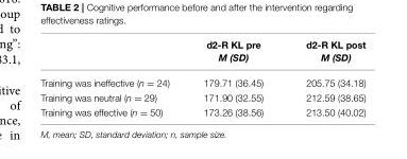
<table><thead><tr><td></td><td>d2-R KL pre M (SD)</td><td>d2-R KL post M (SD)</td></tr></thead><tbody><tr><td>Training was ineffective (n = 24)</td><td>179.71 (36.45)</td><td>205.75 (34.18)</td></tr><tr><td>Training was neutral (n = 29)</td><td>171.90 (32.55)</td><td>212.59 (38.65)</td></tr><tr><td>Training was effective (n = 50)</td><td>173.26 (38.56)</td><td>213.50 (40.02)</td></tr></tbody></table>